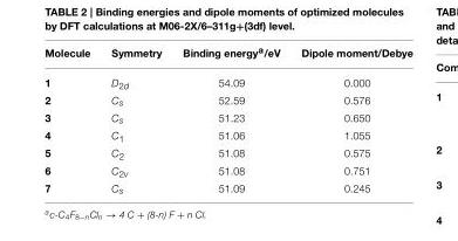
<table><thead><tr><td>Molecule</td><td>Symmetry</td><td>Binding energy<sup>a</sup>/eV</td><td>Dipole moment/Debye</td></tr></thead><tbody><tr><td>1</td><td>D<sub>2d</sub></td><td>54.09</td><td>0.000</td></tr><tr><td>2</td><td>C<sub>s</sub></td><td>52.59</td><td>0.576</td></tr><tr><td>3</td><td>C<sub>s</sub></td><td>51.23</td><td>0.650</td></tr><tr><td>4</td><td>C<sub>1</sub></td><td>51.06</td><td>1.055</td></tr><tr><td>5</td><td>C<sub>2</sub></td><td>51.08</td><td>0.575</td></tr><tr><td>6</td><td>C<sub>2v</sub></td><td>51.08</td><td>0.751</td></tr><tr><td>7</td><td>C<sub>s</sub></td><td>51.09</td><td>0.245</td></tr></tbody></table>